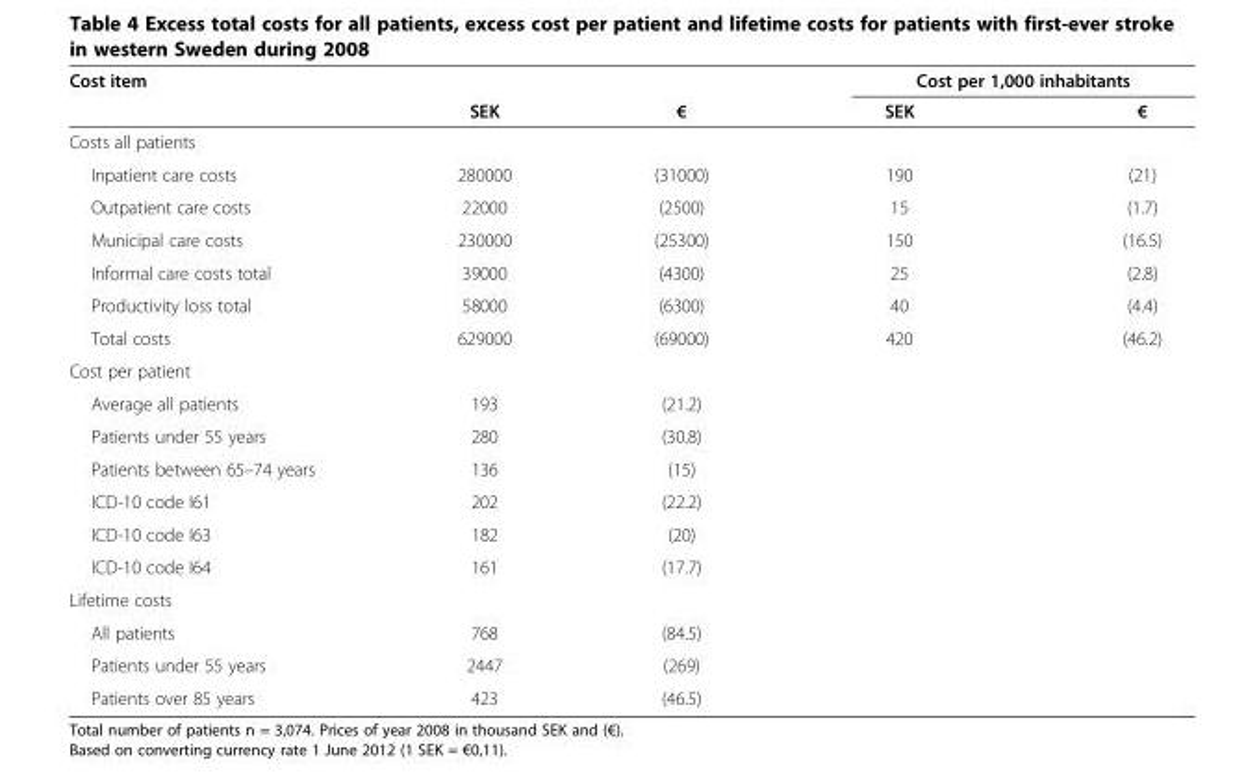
<table><thead><tr><td rowspan="2">Cost item</td><td rowspan="2">SEK</td><td rowspan="2">€</td><td colspan="2">Cost per 1,000 inhabitants</td></tr><tr><td>SEK</td><td>€</td></tr></thead><tbody><tr><td colspan="5">Costs all patients</td></tr><tr><td>Inpatient care costs</td><td>280000</td><td>(31000)</td><td>190</td><td>(21)</td></tr><tr><td>Outpatient care costs</td><td>22000</td><td>(2500)</td><td>15</td><td>(1.7)</td></tr><tr><td>Municipal care costs</td><td>230000</td><td>(25300)</td><td>150</td><td>(16.5)</td></tr><tr><td>Informal care costs total</td><td>39000</td><td>(4300)</td><td>25</td><td>(2.8)</td></tr><tr><td>Productivity loss total</td><td>58000</td><td>(6300)</td><td>40</td><td>(4.4)</td></tr><tr><td>Total costs</td><td>629000</td><td>(69000)</td><td>420</td><td>(46.2)</td></tr><tr><td colspan="5">Cost per patient</td></tr><tr><td>Average all patients</td><td>193</td><td>(21.2)</td><td></td><td></td></tr><tr><td>Patients under 55 years</td><td>280</td><td>(30.8)</td><td></td><td></td></tr><tr><td>Patients between 65–74 years</td><td>136</td><td>(15)</td><td></td><td></td></tr><tr><td>ICD-10 code I61</td><td>202</td><td>(22.2)</td><td></td><td></td></tr><tr><td>ICD-10 code I63</td><td>182</td><td>(20)</td><td></td><td></td></tr><tr><td>ICD-10 code I64</td><td>161</td><td>(17.7)</td><td></td><td></td></tr><tr><td colspan="5">Lifetime costs</td></tr><tr><td>All patients</td><td>768</td><td>(84.5)</td><td></td><td></td></tr><tr><td>Patients under 55 years</td><td>2447</td><td>(269)</td><td></td><td></td></tr><tr><td>Patients over 85 years</td><td>423</td><td>(46.5)</td><td></td><td></td></tr></tbody></table>